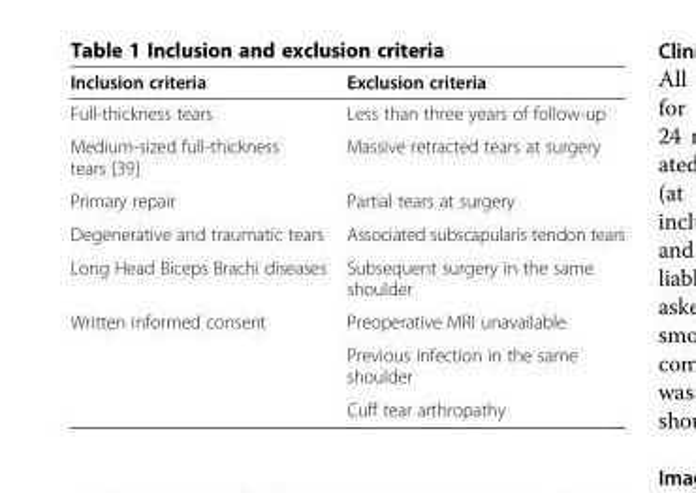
<table><thead><tr><td>Inclusion criteria</td><td>Exclusion criteria</td></tr></thead><tbody><tr><td>Full-thickness tears</td><td>Less than three years of follow-up</td></tr><tr><td>Medium-sized full-thickness tears [39]</td><td>Massive retracted tears at surgery</td></tr><tr><td>Primary repair</td><td>Partial tears at surgery</td></tr><tr><td>Degenerative and traumatic tears</td><td>Associated subscapularis tendon tears</td></tr><tr><td>Long Head Biceps Brachi diseases</td><td>Subsequent surgery in the same shoulder</td></tr><tr><td rowspan="3">Written informed consent</td><td>Preoperative MRI unavailable</td></tr><tr><td>Previous infection in the same shoulder</td></tr><tr><td>Cuff tear arthropathy</td></tr></tbody></table>